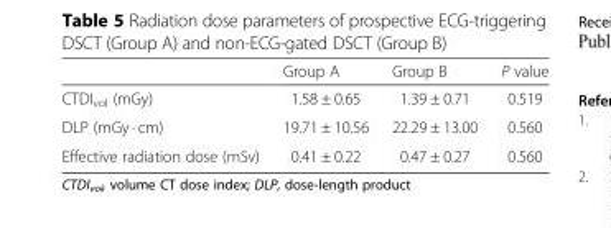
<table><thead><tr><td></td><td>Group A</td><td>Group B</td><td>P value</td></tr></thead><tbody><tr><td>CTDI<sub>vol</sub> (mGy)</td><td>1.58 ± 0.65</td><td>1.39 ± 0.71</td><td>0.519</td></tr><tr><td>DLP (mGy · cm)</td><td>19.71 ± 10.56</td><td>22.29 ± 13.00</td><td>0.560</td></tr><tr><td>Effective radiation dose (mSv)</td><td>0.41 ± 0.22</td><td>0.47 ± 0.27</td><td>0.560</td></tr></tbody></table>